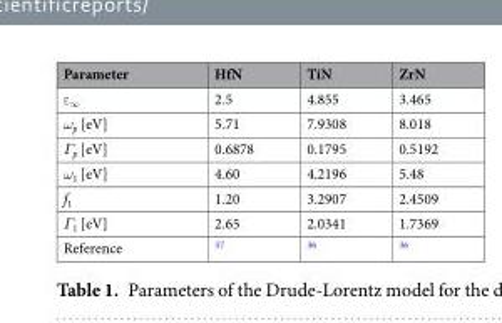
<table><thead><tr><td>Parameter</td><td>HfN</td><td>TiN</td><td>ZrN</td></tr></thead><tbody><tr><td>ε<sub>∞</sub></td><td>2.5</td><td>4.855</td><td>3.465</td></tr><tr><td>ω<sub>p</sub> [eV]</td><td>5.71</td><td>7.9308</td><td>8.018</td></tr><tr><td>Γ<sub>p</sub> [eV]</td><td>0.6878</td><td>0.1795</td><td>0.5192</td></tr><tr><td>ω<sub>1</sub> [eV]</td><td>4.60</td><td>4.2196</td><td>5.48</td></tr><tr><td>f<sub>1</sub></td><td>1.20</td><td>3.2907</td><td>2.4509</td></tr><tr><td>Γ<sub>1</sub> [eV]</td><td>2.65</td><td>2.0341</td><td>1.7369</td></tr><tr><td>Reference</td><td><sup>37</sup></td><td><sup>36</sup></td><td><sup>36</sup></td></tr></tbody></table>